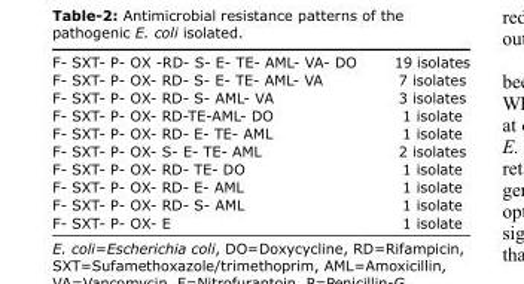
<table><tbody><tr><td>F- SXT- P- OX -RD- S- E- TE- AML- VA- DO</td><td>19 isolates</td></tr><tr><td>F- SXT- P- OX- RD- S- E- TE- AML- VA</td><td>7 isolates</td></tr><tr><td>F- SXT- P- OX- RD- S- AML- VA</td><td>3 isolates</td></tr><tr><td>F- SXT- P- OX- RD-TE-AML- DO</td><td>1 isolate</td></tr><tr><td>F- SXT- P- OX- RD- E- TE- AML</td><td>1 isolate</td></tr><tr><td>F- SXT- P- OX- S- E- TE- AML</td><td>2 isolates</td></tr><tr><td>F- SXT- P- OX- RD- TE- DO</td><td>1 isolate</td></tr><tr><td>F- SXT- P- OX- RD- E- AML</td><td>1 isolate</td></tr><tr><td>F- SXT- P- OX- RD- S- AML</td><td>1 isolate</td></tr><tr><td>F- SXT- P- OX- E</td><td>1 isolate</td></tr></tbody></table>